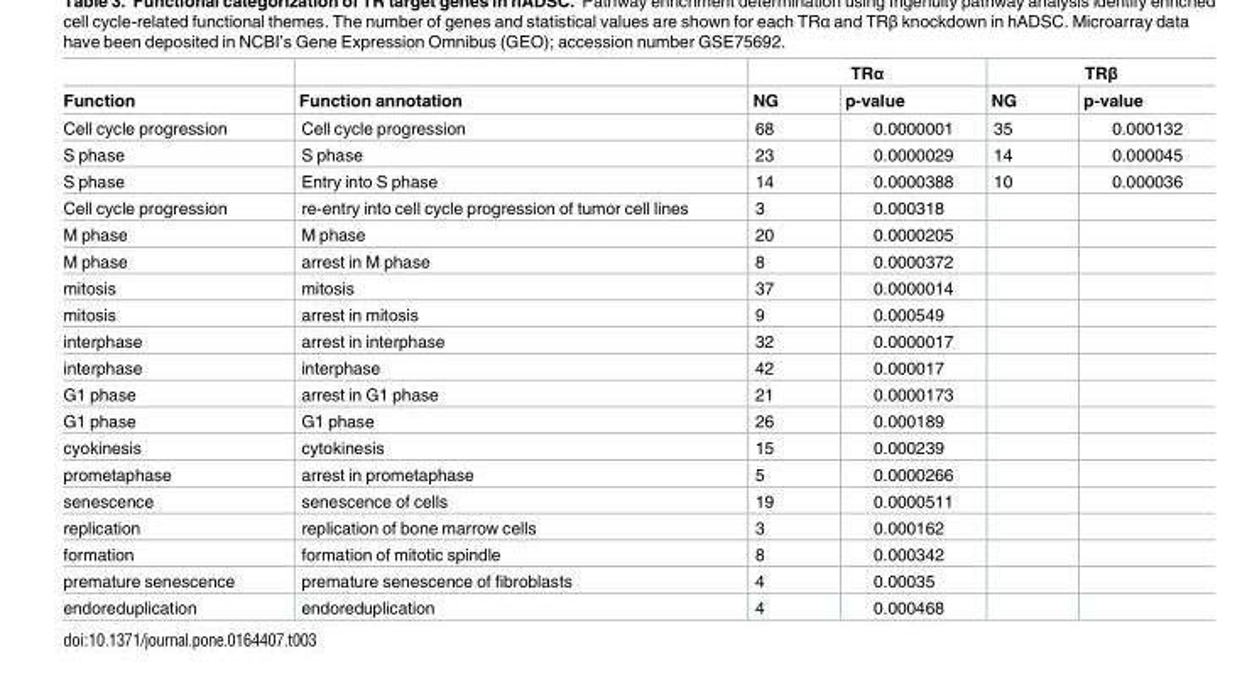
<table><thead><tr><td rowspan="2">Function</td><td rowspan="2">Function annotation</td><td colspan="2">TRα</td><td colspan="2">TRβ</td></tr><tr><td>NG</td><td>p-value</td><td>NG</td><td>p-value</td></tr></thead><tbody><tr><td>Cell cycle progression</td><td>Cell cycle progression</td><td>68</td><td>0.0000001</td><td>35</td><td>0.000132</td></tr><tr><td>S phase</td><td>S phase</td><td>23</td><td>0.0000029</td><td>14</td><td>0.000045</td></tr><tr><td>S phase</td><td>Entry into S phase</td><td>14</td><td>0.0000388</td><td>10</td><td>0.000036</td></tr><tr><td>Cell cycle progression</td><td>re-entry into cell cycle progression of tumor cell lines</td><td>3</td><td>0.000318</td><td></td><td></td></tr><tr><td>M phase</td><td>M phase</td><td>20</td><td>0.0000205</td><td></td><td></td></tr><tr><td>M phase</td><td>arrest in M phase</td><td>8</td><td>0.0000372</td><td></td><td></td></tr><tr><td>mitosis</td><td>mitosis</td><td>37</td><td>0.0000014</td><td></td><td></td></tr><tr><td>mitosis</td><td>arrest in mitosis</td><td>9</td><td>0.000549</td><td></td><td></td></tr><tr><td>interphase</td><td>arrest in interphase</td><td>32</td><td>0.0000017</td><td></td><td></td></tr><tr><td>interphase</td><td>interphase</td><td>42</td><td>0.000017</td><td></td><td></td></tr><tr><td>G1 phase</td><td>arrest in G1 phase</td><td>21</td><td>0.0000173</td><td></td><td></td></tr><tr><td>G1 phase</td><td>G1 phase</td><td>26</td><td>0.000189</td><td></td><td></td></tr><tr><td>cyokinesis</td><td>cytokinesis</td><td>15</td><td>0.000239</td><td></td><td></td></tr><tr><td>prometaphase</td><td>arrest in prometaphase</td><td>5</td><td>0.0000266</td><td></td><td></td></tr><tr><td>senescence</td><td>senescence of cells</td><td>19</td><td>0.0000511</td><td></td><td></td></tr><tr><td>replication</td><td>replication of bone marrow cells</td><td>3</td><td>0.000162</td><td></td><td></td></tr><tr><td>formation</td><td>formation of mitotic spindle</td><td>8</td><td>0.000342</td><td></td><td></td></tr><tr><td>premature senescence</td><td>premature senescence of fibroblasts</td><td>4</td><td>0.00035</td><td></td><td></td></tr><tr><td>endoreduplication</td><td>endoreduplication</td><td>4</td><td>0.000468</td><td></td><td></td></tr></tbody></table>